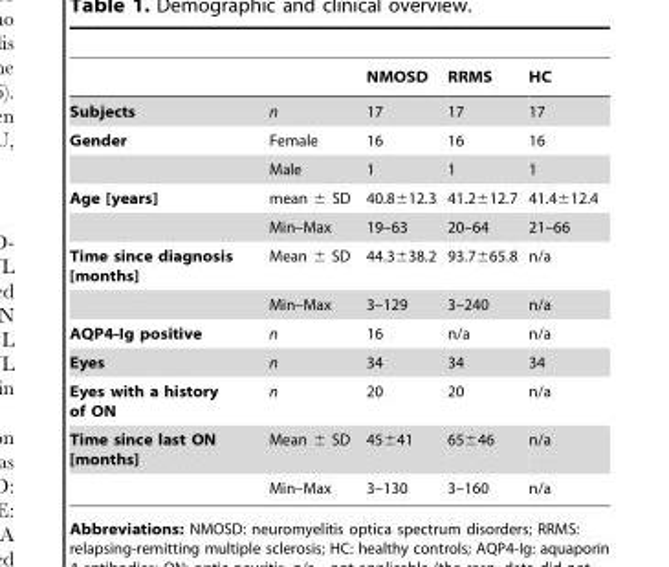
<table><thead><tr><td></td><td></td><td>NMOSD</td><td>RRMS</td><td>HC</td></tr></thead><tbody><tr><td>Subjects</td><td>n</td><td>17</td><td>17</td><td>17</td></tr><tr><td rowspan="2">Gender</td><td>Female</td><td>16</td><td>16</td><td>16</td></tr><tr><td>Male</td><td>1</td><td>1</td><td>1</td></tr><tr><td rowspan="2">Age [years]</td><td>mean ± SD</td><td>40.8±12.3</td><td>41.2±12.7</td><td>41.4±12.4</td></tr><tr><td>Min–Max</td><td>19–63</td><td>20–64</td><td>21–66</td></tr><tr><td rowspan="2">Time since diagnosis [months]</td><td>Mean ± SD</td><td>44.3±38.2</td><td>93.7±65.8</td><td>n/a</td></tr><tr><td>Min–Max</td><td>3–129</td><td>3–240</td><td>n/a</td></tr><tr><td>AQP4-Ig positive</td><td>n</td><td>16</td><td>n/a</td><td>n/a</td></tr><tr><td>Eyes</td><td>n</td><td>34</td><td>34</td><td>34</td></tr><tr><td>Eyes with a history of ON</td><td>n</td><td>20</td><td>20</td><td>n/a</td></tr><tr><td rowspan="2">Time since last ON [months]</td><td>Mean ± SD</td><td>45±41</td><td>65±46</td><td>n/a</td></tr><tr><td>Min–Max</td><td>3–130</td><td>3–160</td><td>n/a</td></tr></tbody></table>